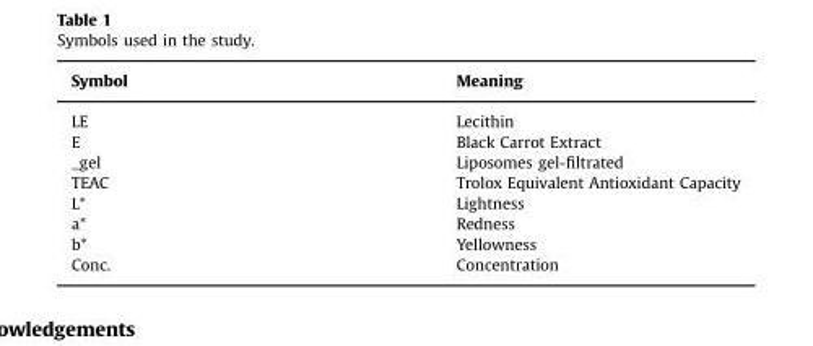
<table><thead><tr><td>Symbol</td><td>Meaning</td></tr></thead><tbody><tr><td>LE</td><td>Lecithin</td></tr><tr><td>E</td><td>Black Carrot Extract</td></tr><tr><td>_gel</td><td>Liposomes gel-filtrated</td></tr><tr><td>TEAC</td><td>Trolox Equivalent Antioxidant Capacity</td></tr><tr><td>L*</td><td>Lightness</td></tr><tr><td>a*</td><td>Redness</td></tr><tr><td>b*</td><td>Yellowness</td></tr><tr><td>Conc.</td><td>Concentration</td></tr></tbody></table>